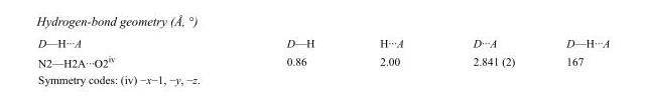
<table><tbody><tr><td>D—H···A</td><td>D—H</td><td>H···A</td><td>D···A</td><td>D—H···A</td></tr><tr><td>N2—H2A···O2<sup>iv</sup></td><td>0.86</td><td>2.00</td><td>2.841 (2)</td><td>167</td></tr></tbody></table>